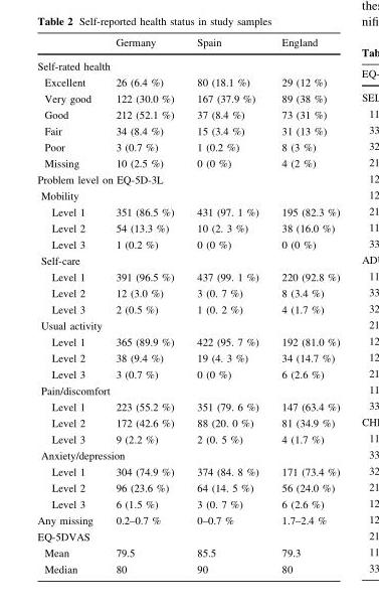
<table><thead><tr><td></td><td>Germany</td><td>Spain</td><td>England</td></tr></thead><tbody><tr><td colspan="4">Self-rated health</td></tr><tr><td>Excellent</td><td>26 (6.4 %)</td><td>80 (18.1 %)</td><td>29 (12 %)</td></tr><tr><td>Very good</td><td>122 (30.0 %)</td><td>167 (37.9 %)</td><td>89 (38 %)</td></tr><tr><td>Good</td><td>212 (52.1 %)</td><td>37 (8.4 %)</td><td>73 (31 %)</td></tr><tr><td>Fair</td><td>34 (8.4 %)</td><td>15 (3.4 %)</td><td>31 (13 %)</td></tr><tr><td>Poor</td><td>3 (0.7 %)</td><td>1 (0.2 %)</td><td>8 (3 %)</td></tr><tr><td>Missing</td><td>10 (2.5 %)</td><td>0 (0 %)</td><td>4 (2 %)</td></tr><tr><td colspan="4">Problem level on EQ-5D-3L</td></tr><tr><td colspan="4">Mobility</td></tr><tr><td>Level 1</td><td>351 (86.5 %)</td><td>431 (97. 1 %)</td><td>195 (82.3 %)</td></tr><tr><td>Level 2</td><td>54 (13.3 %)</td><td>10 (2. 3 %)</td><td>38 (16.0 %)</td></tr><tr><td>Level 3</td><td>1 (0.2 %)</td><td>0 (0 %)</td><td>0 (0 %)</td></tr><tr><td colspan="4">Self-care</td></tr><tr><td>Level 1</td><td>391 (96.5 %)</td><td>437 (99. 1 %)</td><td>220 (92.8 %)</td></tr><tr><td>Level 2</td><td>12 (3.0 %)</td><td>3 (0. 7 %)</td><td>8 (3.4 %)</td></tr><tr><td>Level 3</td><td>2 (0.5 %)</td><td>1 (0. 2 %)</td><td>4 (1.7 %)</td></tr><tr><td colspan="4">Usual activity</td></tr><tr><td>Level 1</td><td>365 (89.9 %)</td><td>422 (95. 7 %)</td><td>192 (81.0 %)</td></tr><tr><td>Level 2</td><td>38 (9.4 %)</td><td>19 (4. 3 %)</td><td>34 (14.7 %)</td></tr><tr><td>Level 3</td><td>3 (0.7 %)</td><td>0 (0 %)</td><td>6 (2.6 %)</td></tr><tr><td colspan="4">Pain/discomfort</td></tr><tr><td>Level 1</td><td>223 (55.2 %)</td><td>351 (79. 6 %)</td><td>147 (63.4 %)</td></tr><tr><td>Level 2</td><td>172 (42.6 %)</td><td>88 (20. 0 %)</td><td>81 (34.9 %)</td></tr><tr><td>Level 3</td><td>9 (2.2 %)</td><td>2 (0. 5 %)</td><td>4 (1.7 %)</td></tr><tr><td colspan="4">Anxiety/depression</td></tr><tr><td>Level 1</td><td>304 (74.9 %)</td><td>374 (84. 8 %)</td><td>171 (73.4 %)</td></tr><tr><td>Level 2</td><td>96 (23.6 %)</td><td>64 (14. 5 %)</td><td>56 (24.0 %)</td></tr><tr><td>Level 3</td><td>6 (1.5 %)</td><td>3 (0. 7 %)</td><td>6 (2.6 %)</td></tr><tr><td>Any missing</td><td>0.2–0.7 %</td><td>0–0.7 %</td><td>1.7–2.4 %</td></tr><tr><td colspan="4">EQ-5DVAS</td></tr><tr><td>Mean</td><td>79.5</td><td>85.5</td><td>79.3</td></tr><tr><td>Median</td><td>80</td><td>90</td><td>80</td></tr></tbody></table>